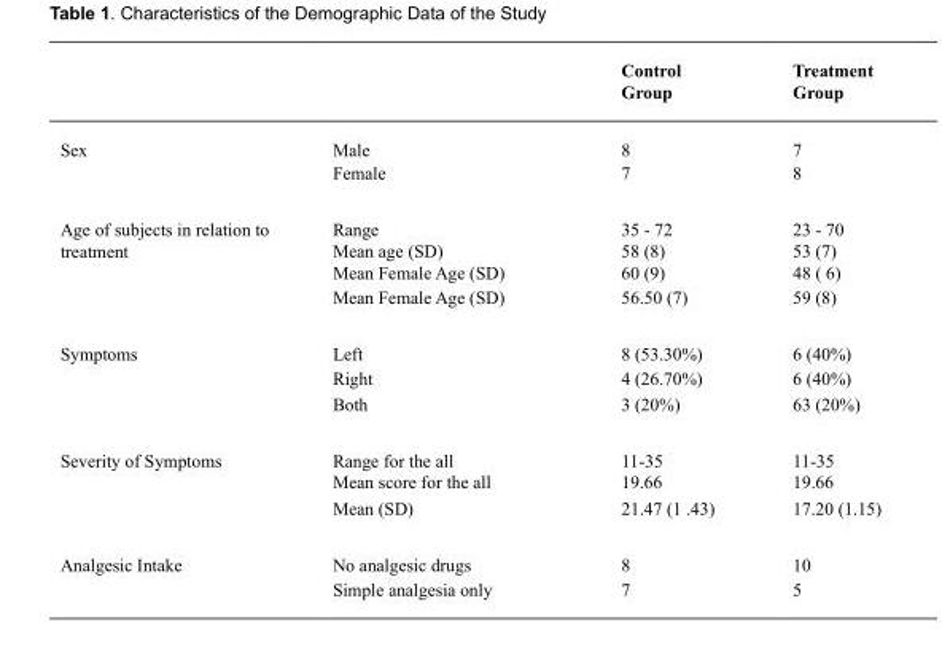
<table><thead><tr><td></td><td></td><td>Control Group</td><td>Treatment Group</td></tr></thead><tbody><tr><td rowspan="2">Sex</td><td>Male</td><td>8</td><td>7</td></tr><tr><td>Female</td><td>7</td><td>8</td></tr><tr><td rowspan="4">Age of subjects in relation to treatment</td><td>Range</td><td>35 - 72</td><td>23 - 70</td></tr><tr><td>Mean age (SD)</td><td>58 (8)</td><td>53 (7)</td></tr><tr><td>Mean Female Age (SD)</td><td>60 (9)</td><td>48 ( 6)</td></tr><tr><td>Mean Female Age (SD)</td><td>56.50 (7)</td><td>59 (8)</td></tr><tr><td rowspan="3">Symptoms</td><td>Left</td><td>8 (53.30%)</td><td>6 (40%)</td></tr><tr><td>Right</td><td>4 (26.70%)</td><td>6 (40%)</td></tr><tr><td>Both</td><td>3 (20%)</td><td>63 (20%)</td></tr><tr><td rowspan="3">Severity of Symptoms</td><td>Range for the all</td><td>11-35</td><td>11-35</td></tr><tr><td>Mean score for the all</td><td>19.66</td><td>19.66</td></tr><tr><td>Mean (SD)</td><td>21.47 (1 .43)</td><td>17.20 (1.15)</td></tr><tr><td rowspan="2">Analgesic Intake</td><td>No analgesic drugs</td><td>8</td><td>10</td></tr><tr><td>Simple analgesia only</td><td>7</td><td>5</td></tr></tbody></table>